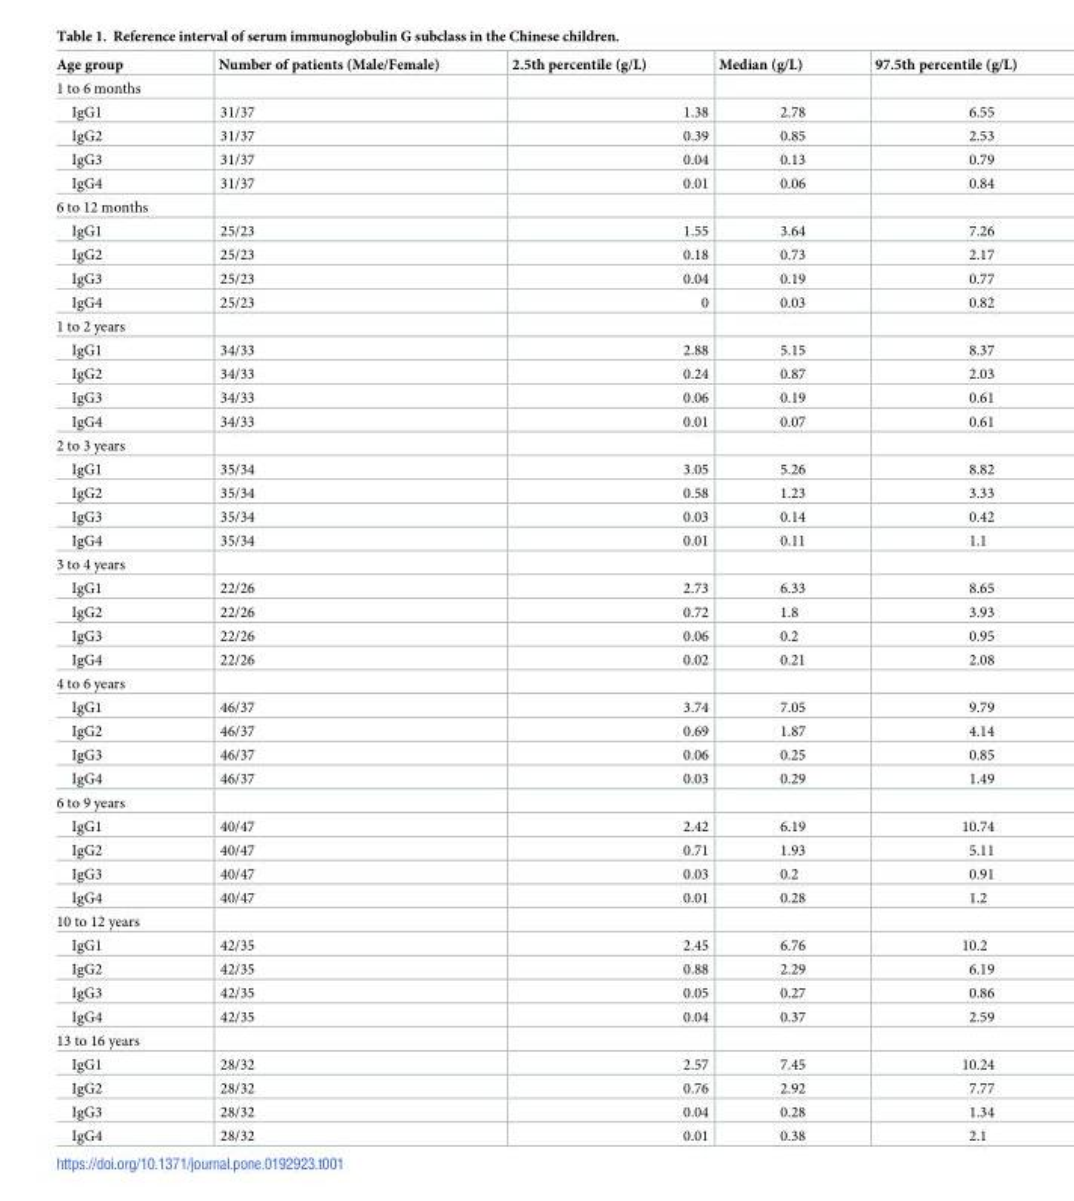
<table><thead><tr><td>Age group</td><td>Number of patients (Male/Female)</td><td>2.5th percentile (g/L)</td><td>Median (g/L)</td><td>97.5th percentile (g/L)</td></tr></thead><tbody><tr><td colspan="5">1 to 6 months</td></tr><tr><td>IgG1</td><td>31/37</td><td>1.38</td><td>2.78</td><td>6.55</td></tr><tr><td>IgG2</td><td>31/37</td><td>0.39</td><td>0.85</td><td>2.53</td></tr><tr><td>IgG3</td><td>31/37</td><td>0.04</td><td>0.13</td><td>0.79</td></tr><tr><td>IgG4</td><td>31/37</td><td>0.01</td><td>0.06</td><td>0.84</td></tr><tr><td colspan="5">6 to 12 months</td></tr><tr><td>IgG1</td><td>25/23</td><td>1.55</td><td>3.64</td><td>7.26</td></tr><tr><td>IgG2</td><td>25/23</td><td>0.18</td><td>0.73</td><td>2.17</td></tr><tr><td>IgG3</td><td>25/23</td><td>0.04</td><td>0.19</td><td>0.77</td></tr><tr><td>IgG4</td><td>25/23</td><td>0</td><td>0.03</td><td>0.82</td></tr><tr><td colspan="5">1 to 2 years</td></tr><tr><td>IgG1</td><td>34/33</td><td>2.88</td><td>5.15</td><td>8.37</td></tr><tr><td>IgG2</td><td>34/33</td><td>0.24</td><td>0.87</td><td>2.03</td></tr><tr><td>IgG3</td><td>34/33</td><td>0.06</td><td>0.19</td><td>0.61</td></tr><tr><td>IgG4</td><td>34/33</td><td>0.01</td><td>0.07</td><td>0.61</td></tr><tr><td colspan="5">2 to 3 years</td></tr><tr><td>IgG1</td><td>35/34</td><td>3.05</td><td>5.26</td><td>8.82</td></tr><tr><td>IgG2</td><td>35/34</td><td>0.58</td><td>1.23</td><td>3.33</td></tr><tr><td>IgG3</td><td>35/34</td><td>0.03</td><td>0.14</td><td>0.42</td></tr><tr><td>IgG4</td><td>35/34</td><td>0.01</td><td>0.11</td><td>1.1</td></tr><tr><td colspan="5">3 to 4 years</td></tr><tr><td>IgG1</td><td>22/26</td><td>2.73</td><td>6.33</td><td>8.65</td></tr><tr><td>IgG2</td><td>22/26</td><td>0.72</td><td>1.8</td><td>3.93</td></tr><tr><td>IgG3</td><td>22/26</td><td>0.06</td><td>0.2</td><td>0.95</td></tr><tr><td>IgG4</td><td>22/26</td><td>0.02</td><td>0.21</td><td>2.08</td></tr><tr><td colspan="5">4 to 6 years</td></tr><tr><td>IgG1</td><td>46/37</td><td>3.74</td><td>7.05</td><td>9.79</td></tr><tr><td>IgG2</td><td>46/37</td><td>0.69</td><td>1.87</td><td>4.14</td></tr><tr><td>IgG3</td><td>46/37</td><td>0.06</td><td>0.25</td><td>0.85</td></tr><tr><td>IgG4</td><td>46/37</td><td>0.03</td><td>0.29</td><td>1.49</td></tr><tr><td colspan="5">6 to 9 years</td></tr><tr><td>IgG1</td><td>40/47</td><td>2.42</td><td>6.19</td><td>10.74</td></tr><tr><td>IgG2</td><td>40/47</td><td>0.71</td><td>1.93</td><td>5.11</td></tr><tr><td>IgG3</td><td>40/47</td><td>0.03</td><td>0.2</td><td>0.91</td></tr><tr><td>IgG4</td><td>40/47</td><td>0.01</td><td>0.28</td><td>1.2</td></tr><tr><td colspan="5">10 to 12 years</td></tr><tr><td>IgG1</td><td>42/35</td><td>2.45</td><td>6.76</td><td>10.2</td></tr><tr><td>IgG2</td><td>42/35</td><td>0.88</td><td>2.29</td><td>6.19</td></tr><tr><td>IgG3</td><td>42/35</td><td>0.05</td><td>0.27</td><td>0.86</td></tr><tr><td>IgG4</td><td>42/35</td><td>0.04</td><td>0.37</td><td>2.59</td></tr><tr><td colspan="5">13 to 16 years</td></tr><tr><td>IgG1</td><td>28/32</td><td>2.57</td><td>7.45</td><td>10.24</td></tr><tr><td>IgG2</td><td>28/32</td><td>0.76</td><td>2.92</td><td>7.77</td></tr><tr><td>IgG3</td><td>28/32</td><td>0.04</td><td>0.28</td><td>1.34</td></tr><tr><td>IgG4</td><td>28/32</td><td>0.01</td><td>0.38</td><td>2.1</td></tr></tbody></table>